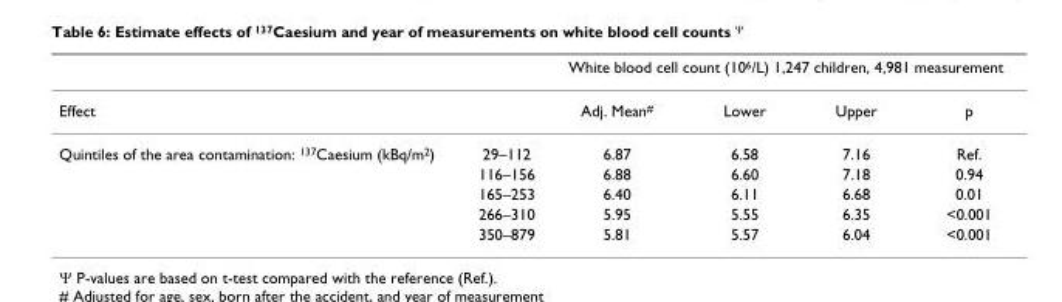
<table><thead><tr><td rowspan="2">Effect</td><td rowspan="2"></td><td colspan="4">White blood cell count (10<sup>6</sup>/L) 1,247 children, 4,981 measurement</td></tr><tr><td>Adj. Mean<sup>#</sup></td><td>Lower</td><td>Upper</td><td>p</td></tr></thead><tbody><tr><td rowspan="5">Quintiles of the area contamination: <sup>137</sup>Caesium (kBq/m<sup>2</sup>)</td><td>29–112</td><td>6.87</td><td>6.58</td><td>7.16</td><td>Ref.</td></tr><tr><td>116–156</td><td>6.88</td><td>6.60</td><td>7.18</td><td>0.94</td></tr><tr><td>165–253</td><td>6.40</td><td>6.11</td><td>6.68</td><td>0.01</td></tr><tr><td>266–310</td><td>5.95</td><td>5.55</td><td>6.35</td><td>&lt;0.001</td></tr><tr><td>350–879</td><td>5.81</td><td>5.57</td><td>6.04</td><td>&lt;0.001</td></tr></tbody></table>